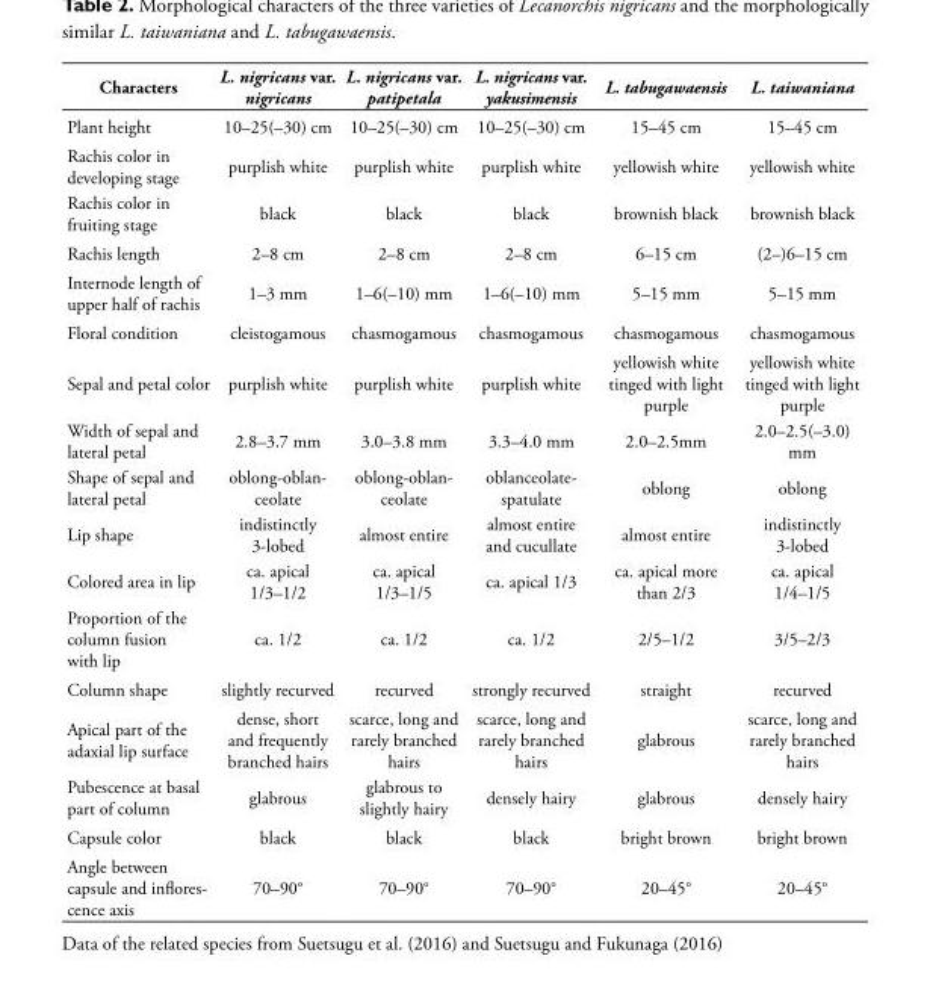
<table><thead><tr><td>Characters</td><td>L. nigricans var. nigricans</td><td>L. nigricans var. patipetala</td><td>L. nigricans var. yakusimensis</td><td>L. tabugawaensis</td><td>L. taiwaniana</td></tr></thead><tbody><tr><td>Plant height</td><td>10–25(–30) cm</td><td>10–25(–30) cm</td><td>10–25(–30) cm</td><td>15–45 cm</td><td>15–45 cm</td></tr><tr><td>Rachis color in developing stage</td><td>purplish white</td><td>purplish white</td><td>purplish white</td><td>yellowish white</td><td>yellowish white</td></tr><tr><td>Rachis color in fruiting stage</td><td>black</td><td>black</td><td>black</td><td>brownish black</td><td>brownish black</td></tr><tr><td>Rachis length</td><td>2–8 cm</td><td>2–8 cm</td><td>2–8 cm</td><td>6–15 cm</td><td>(2–)6–15 cm</td></tr><tr><td>Internode length of upper half of rachis</td><td>1–3 mm</td><td>1–6(–10) mm</td><td>1–6(–10) mm</td><td>5–15 mm</td><td>5–15 mm</td></tr><tr><td>Floral condition</td><td>cleistogamous</td><td>chasmogamous</td><td>chasmogamous</td><td>chasmogamous</td><td>chasmogamous</td></tr><tr><td>Sepal and petal color</td><td>purplish white</td><td>purplish white</td><td>purplish white</td><td>yellowish white tinged with light purple</td><td>yellowish white tinged with light purple</td></tr><tr><td>Width of sepal and lateral petal</td><td>2.8–3.7 mm</td><td>3.0–3.8 mm</td><td>3.3–4.0 mm</td><td>2.0–2.5mm</td><td>2.0–2.5(–3.0) mm</td></tr><tr><td>Shape of sepal and lateral petal</td><td>oblong-oblan- ceolate</td><td>oblong-oblan- ceolate</td><td>oblanceolate- spatulate</td><td>oblong</td><td>oblong</td></tr><tr><td>Lip shape</td><td>indistinctly 3-lobed</td><td>almost entire</td><td>almost entire and cucullate</td><td>almost entire</td><td>indistinctly 3-lobed</td></tr><tr><td>Colored area in lip</td><td>ca. apical 1/3–1/2</td><td>ca. apical 1/3–1/5</td><td>ca. apical 1/3</td><td>ca. apical more than 2/3</td><td>ca. apical 1/4–1/5</td></tr><tr><td>Proportion of the column fusion with lip</td><td>ca. 1/2</td><td>ca. 1/2</td><td>ca. 1/2</td><td>2/5–1/2</td><td>3/5–2/3</td></tr><tr><td>Column shape</td><td>slightly recurved</td><td>recurved</td><td>strongly recurved</td><td>straight</td><td>recurved</td></tr><tr><td>Apical part of the adaxial lip surface</td><td>dense, short and frequently branched hairs</td><td>scarce, long and rarely branched hairs</td><td>scarce, long and rarely branched hairs</td><td>glabrous</td><td>scarce, long and rarely branched hairs</td></tr><tr><td>Pubescence at basal part of column</td><td>glabrous</td><td>glabrous to slightly hairy</td><td>densely hairy</td><td>glabrous</td><td>densely hairy</td></tr><tr><td>Capsule color</td><td>black</td><td>black</td><td>black</td><td>bright brown</td><td>bright brown</td></tr><tr><td>Angle between capsule and inflores- cence axis</td><td>70–90°</td><td>70–90°</td><td>70–90°</td><td>20–45°</td><td>20–45°</td></tr></tbody></table>